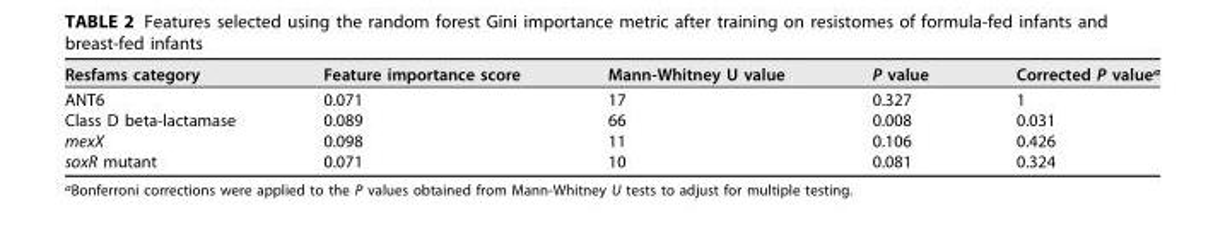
<table><thead><tr><td>Resfams category</td><td>Feature importance score</td><td>Mann-Whitney U value</td><td>P value</td><td>Corrected P value<sup>a</sup></td></tr></thead><tbody><tr><td>ANT6</td><td>0.071</td><td>17</td><td>0.327</td><td>1</td></tr><tr><td>Class D beta-lactamase</td><td>0.089</td><td>66</td><td>0.008</td><td>0.031</td></tr><tr><td>mexX</td><td>0.098</td><td>11</td><td>0.106</td><td>0.426</td></tr><tr><td>soxR mutant</td><td>0.071</td><td>10</td><td>0.081</td><td>0.324</td></tr></tbody></table>